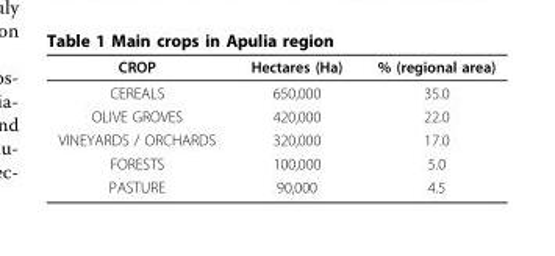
<table><thead><tr><td>CROP</td><td>Hectares (Ha)</td><td>% (regional area)</td></tr></thead><tbody><tr><td>CEREALS</td><td>650,000</td><td>35.0</td></tr><tr><td>OLIVE GROVES</td><td>420,000</td><td>22.0</td></tr><tr><td>VINEYARDS / ORCHARDS</td><td>320,000</td><td>17.0</td></tr><tr><td>FORESTS</td><td>100,000</td><td>5.0</td></tr><tr><td>PASTURE</td><td>90,000</td><td>4.5</td></tr></tbody></table>